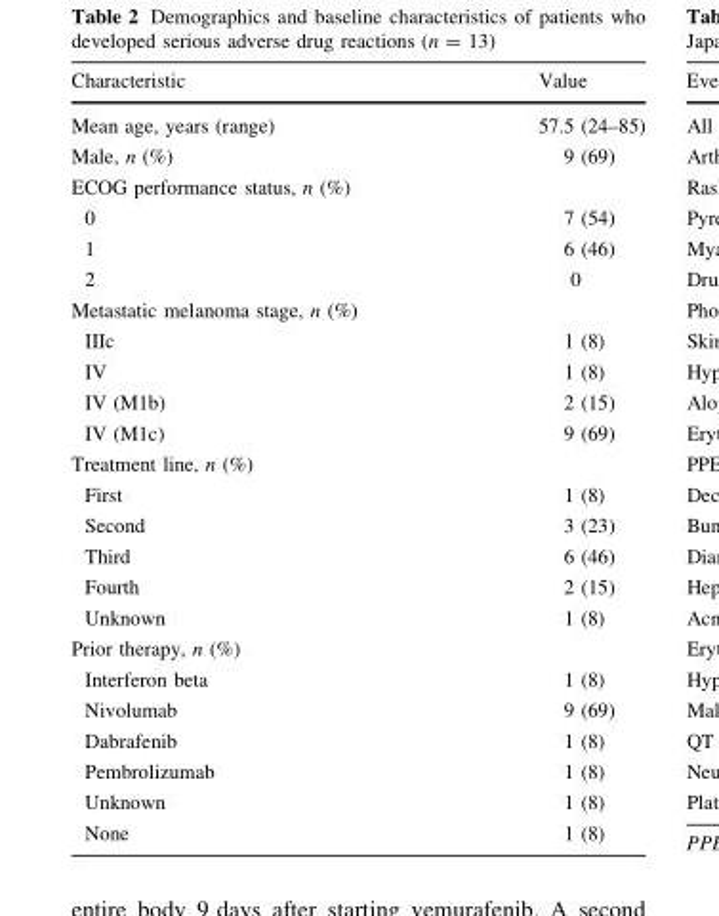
<table><thead><tr><td>Characteristic</td><td>Value</td></tr></thead><tbody><tr><td>Mean age, years (range)</td><td>57.5 (24–85)</td></tr><tr><td>Male, n (%)</td><td>9 (69)</td></tr><tr><td colspan="2">ECOG performance status, n (%)</td></tr><tr><td>0</td><td>7 (54)</td></tr><tr><td>1</td><td>6 (46)</td></tr><tr><td>2</td><td>0</td></tr><tr><td colspan="2">Metastatic melanoma stage, n (%)</td></tr><tr><td>IIIc</td><td>1 (8)</td></tr><tr><td>IV</td><td>1 (8)</td></tr><tr><td>IV (M1b)</td><td>2 (15)</td></tr><tr><td>IV (M1c)</td><td>9 (69)</td></tr><tr><td colspan="2">Treatment line, n (%)</td></tr><tr><td>First</td><td>1 (8)</td></tr><tr><td>Second</td><td>3 (23)</td></tr><tr><td>Third</td><td>6 (46)</td></tr><tr><td>Fourth</td><td>2 (15)</td></tr><tr><td>Unknown</td><td>1 (8)</td></tr><tr><td colspan="2">Prior therapy, n (%)</td></tr><tr><td>Interferon beta</td><td>1 (8)</td></tr><tr><td>Nivolumab</td><td>9 (69)</td></tr><tr><td>Dabrafenib</td><td>1 (8)</td></tr><tr><td>Pembrolizumab</td><td>1 (8)</td></tr><tr><td>Unknown</td><td>1 (8)</td></tr><tr><td>None</td><td>1 (8)</td></tr></tbody></table>